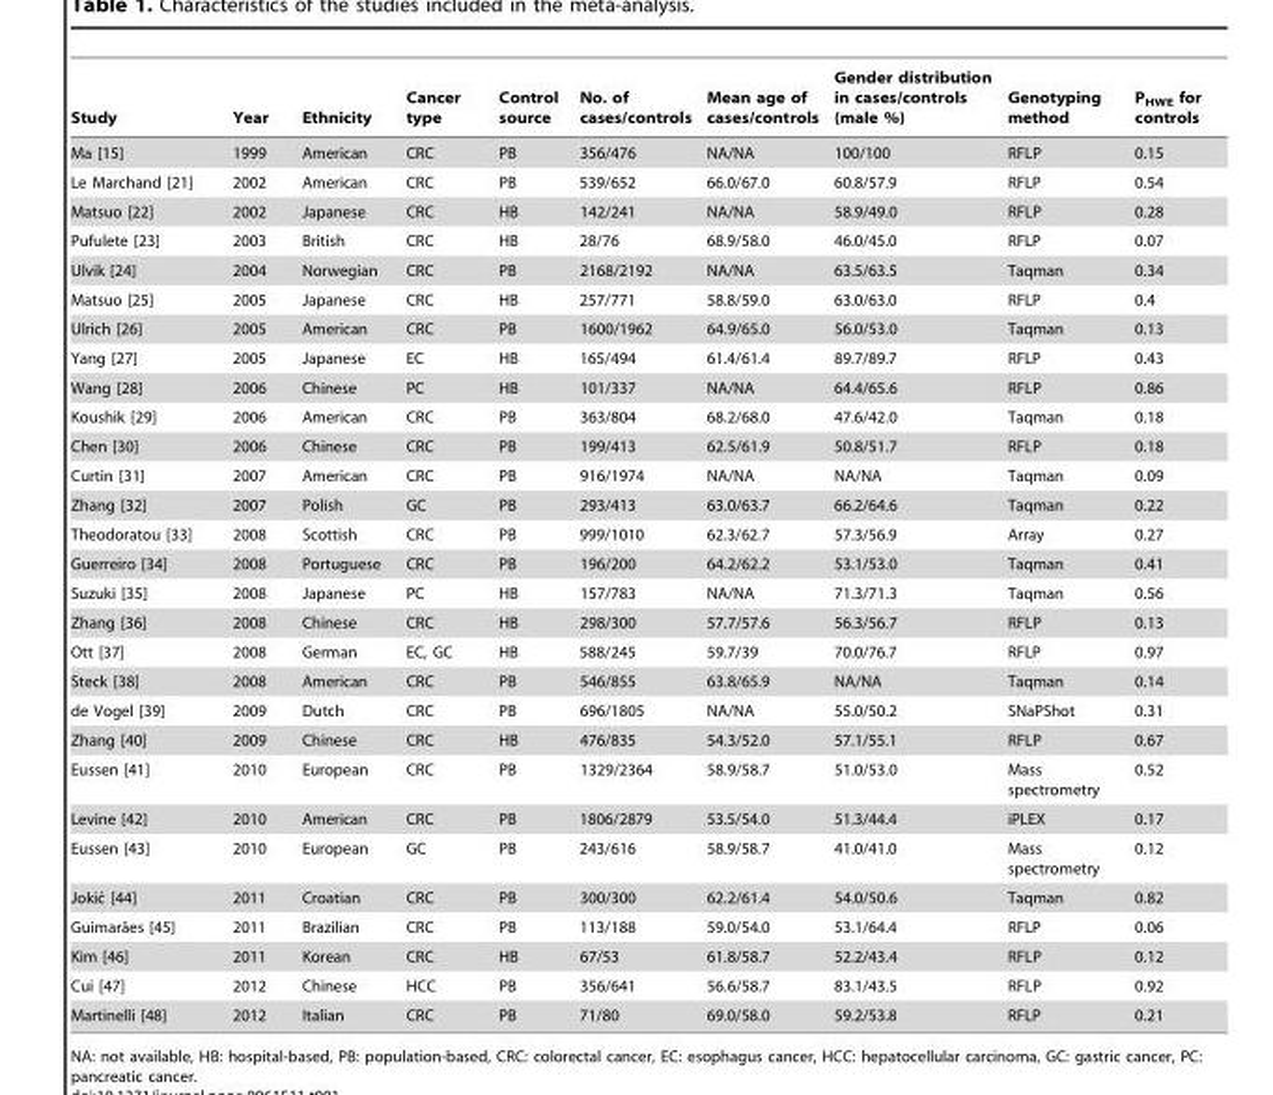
<table><thead><tr><td>Study</td><td>Year</td><td>Ethnicity</td><td>Cancer type</td><td>Control source</td><td>No. of cases/controls</td><td>Mean age of cases/controls</td><td>Gender distribution in cases/controls (male %)</td><td>Genotyping method</td><td>P<sub>HWE</sub> for controls</td></tr></thead><tbody><tr><td>Ma [15]</td><td>1999</td><td>American</td><td>CRC</td><td>PB</td><td>356/476</td><td>NA/NA</td><td>100/100</td><td>RFLP</td><td>0.15</td></tr><tr><td>Le Marchand [21]</td><td>2002</td><td>American</td><td>CRC</td><td>PB</td><td>539/652</td><td>66.0/67.0</td><td>60.8/57.9</td><td>RFLP</td><td>0.54</td></tr><tr><td>Matsuo [22]</td><td>2002</td><td>Japanese</td><td>CRC</td><td>HB</td><td>142/241</td><td>NA/NA</td><td>58.9/49.0</td><td>RFLP</td><td>0.28</td></tr><tr><td>Pufulete [23]</td><td>2003</td><td>British</td><td>CRC</td><td>HB</td><td>28/76</td><td>68.9/58.0</td><td>46.0/45.0</td><td>RFLP</td><td>0.07</td></tr><tr><td>Ulvik [24]</td><td>2004</td><td>Norwegian</td><td>CRC</td><td>PB</td><td>2168/2192</td><td>NA/NA</td><td>63.5/63.5</td><td>Taqman</td><td>0.34</td></tr><tr><td>Matsuo [25]</td><td>2005</td><td>Japanese</td><td>CRC</td><td>HB</td><td>257/771</td><td>58.8/59.0</td><td>63.0/63.0</td><td>RFLP</td><td>0.4</td></tr><tr><td>Ulrich [26]</td><td>2005</td><td>American</td><td>CRC</td><td>PB</td><td>1600/1962</td><td>64.9/65.0</td><td>56.0/53.0</td><td>Taqman</td><td>0.13</td></tr><tr><td>Yang [27]</td><td>2005</td><td>Japanese</td><td>EC</td><td>HB</td><td>165/494</td><td>61.4/61.4</td><td>89.7/89.7</td><td>RFLP</td><td>0.43</td></tr><tr><td>Wang [28]</td><td>2006</td><td>Chinese</td><td>PC</td><td>HB</td><td>101/337</td><td>NA/NA</td><td>64.4/65.6</td><td>RFLP</td><td>0.86</td></tr><tr><td>Koushik [29]</td><td>2006</td><td>American</td><td>CRC</td><td>PB</td><td>363/804</td><td>68.2/68.0</td><td>47.6/42.0</td><td>Taqman</td><td>0.18</td></tr><tr><td>Chen [30]</td><td>2006</td><td>Chinese</td><td>CRC</td><td>PB</td><td>199/413</td><td>62.5/61.9</td><td>50.8/51.7</td><td>RFLP</td><td>0.18</td></tr><tr><td>Curtin [31]</td><td>2007</td><td>American</td><td>CRC</td><td>PB</td><td>916/1974</td><td>NA/NA</td><td>NA/NA</td><td>Taqman</td><td>0.09</td></tr><tr><td>Zhang [32]</td><td>2007</td><td>Polish</td><td>GC</td><td>PB</td><td>293/413</td><td>63.0/63.7</td><td>66.2/64.6</td><td>Taqman</td><td>0.22</td></tr><tr><td>Theodoratou [33]</td><td>2008</td><td>Scottish</td><td>CRC</td><td>PB</td><td>999/1010</td><td>62.3/62.7</td><td>57.3/56.9</td><td>Array</td><td>0.27</td></tr><tr><td>Guerreiro [34]</td><td>2008</td><td>Portuguese</td><td>CRC</td><td>PB</td><td>196/200</td><td>64.2/62.2</td><td>53.1/53.0</td><td>Taqman</td><td>0.41</td></tr><tr><td>Suzuki [35]</td><td>2008</td><td>Japanese</td><td>PC</td><td>HB</td><td>157/783</td><td>NA/NA</td><td>71.3/71.3</td><td>Taqman</td><td>0.56</td></tr><tr><td>Zhang [36]</td><td>2008</td><td>Chinese</td><td>CRC</td><td>HB</td><td>298/300</td><td>57.7/57.6</td><td>56.3/56.7</td><td>RFLP</td><td>0.13</td></tr><tr><td>Ott [37]</td><td>2008</td><td>German</td><td>EC, GC</td><td>HB</td><td>588/245</td><td>59.7/39</td><td>70.0/76.7</td><td>RFLP</td><td>0.97</td></tr><tr><td>Steck [38]</td><td>2008</td><td>American</td><td>CRC</td><td>PB</td><td>546/855</td><td>63.8/65.9</td><td>NA/NA</td><td>Taqman</td><td>0.14</td></tr><tr><td>de Vogel [39]</td><td>2009</td><td>Dutch</td><td>CRC</td><td>PB</td><td>696/1805</td><td>NA/NA</td><td>55.0/50.2</td><td>SNaPShot</td><td>0.31</td></tr><tr><td>Zhang [40]</td><td>2009</td><td>Chinese</td><td>CRC</td><td>HB</td><td>476/835</td><td>54.3/52.0</td><td>57.1/55.1</td><td>RFLP</td><td>0.67</td></tr><tr><td>Eussen [41]</td><td>2010</td><td>European</td><td>CRC</td><td>PB</td><td>1329/2364</td><td>58.9/58.7</td><td>51.0/53.0</td><td>Mass spectrometry</td><td>0.52</td></tr><tr><td>Levine [42]</td><td>2010</td><td>American</td><td>CRC</td><td>PB</td><td>1806/2879</td><td>53.5/54.0</td><td>51.3/44.4</td><td>iPLEX</td><td>0.17</td></tr><tr><td>Eussen [43]</td><td>2010</td><td>European</td><td>GC</td><td>PB</td><td>243/616</td><td>58.9/58.7</td><td>41.0/41.0</td><td>Mass spectrometry</td><td>0.12</td></tr><tr><td>Jokic´ [44]</td><td>2011</td><td>Croatian</td><td>CRC</td><td>PB</td><td>300/300</td><td>62.2/61.4</td><td>54.0/50.6</td><td>Taqman</td><td>0.82</td></tr><tr><td>Guimara˜es [45]</td><td>2011</td><td>Brazilian</td><td>CRC</td><td>PB</td><td>113/188</td><td>59.0/54.0</td><td>53.1/64.4</td><td>RFLP</td><td>0.06</td></tr><tr><td>Kim [46]</td><td>2011</td><td>Korean</td><td>CRC</td><td>HB</td><td>67/53</td><td>61.8/58.7</td><td>52.2/43.4</td><td>RFLP</td><td>0.12</td></tr><tr><td>Cui [47]</td><td>2012</td><td>Chinese</td><td>HCC</td><td>PB</td><td>356/641</td><td>56.6/58.7</td><td>83.1/43.5</td><td>RFLP</td><td>0.92</td></tr><tr><td>Martinelli [48]</td><td>2012</td><td>Italian</td><td>CRC</td><td>PB</td><td>71/80</td><td>69.0/58.0</td><td>59.2/53.8</td><td>RFLP</td><td>0.21</td></tr></tbody></table>